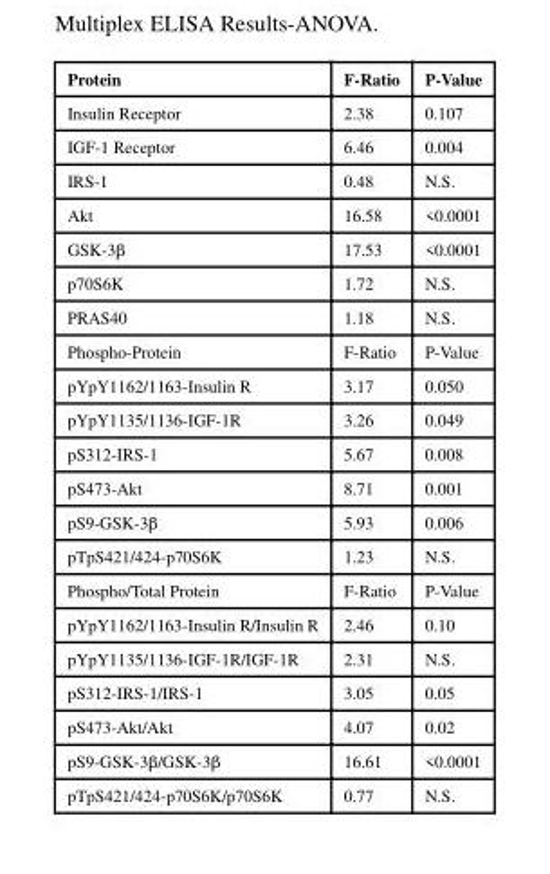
<table><thead><tr><td>Protein</td><td>F-Ratio</td><td>P-Value</td></tr></thead><tbody><tr><td>Insulin Receptor</td><td>2.38</td><td>0.107</td></tr><tr><td>IGF-1 Receptor</td><td>6.46</td><td>0.004</td></tr><tr><td>IRS-1</td><td>0.48</td><td>N.S.</td></tr><tr><td>Akt</td><td>16.58</td><td>&lt;0.0001</td></tr><tr><td>GSK-3β</td><td>17.53</td><td>&lt;0.0001</td></tr><tr><td>p70S6K</td><td>1.72</td><td>N.S.</td></tr><tr><td>PRAS40</td><td>1.18</td><td>N.S.</td></tr><tr><td>Phospho-Protein</td><td>F-Ratio</td><td>P-Value</td></tr><tr><td>pYpY1162/1163-Insulin R</td><td>3.17</td><td>0.050</td></tr><tr><td>pYpY1135/1136-IGF-1R</td><td>3.26</td><td>0.049</td></tr><tr><td>pS312-IRS-1</td><td>5.67</td><td>0.008</td></tr><tr><td>pS473-Akt</td><td>8.71</td><td>0.001</td></tr><tr><td>pS9-GSK-3β</td><td>5.93</td><td>0.006</td></tr><tr><td>pTpS421/424-p70S6K</td><td>1.23</td><td>N.S.</td></tr><tr><td>Phospho/Total Protein</td><td>F-Ratio</td><td>P-Value</td></tr><tr><td>pYpY1162/1163-Insulin R/Insulin R</td><td>2.46</td><td>0.10</td></tr><tr><td>pYpY1135/1136-IGF-1R/IGF-1R</td><td>2.31</td><td>N.S.</td></tr><tr><td>pS312-IRS-1/IRS-1</td><td>3.05</td><td>0.05</td></tr><tr><td>pS473-Akt/Akt</td><td>4.07</td><td>0.02</td></tr><tr><td>pS9-GSK-3β/GSK-3β</td><td>16.61</td><td>&lt;0.0001</td></tr><tr><td>pTpS421/424-p70S6K/p70S6K</td><td>0.77</td><td>N.S.</td></tr></tbody></table>